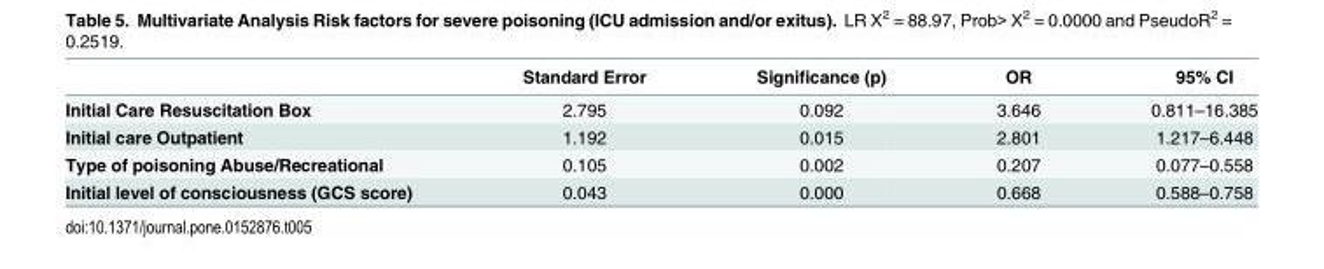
<table><thead><tr><td></td><td>Standard Error</td><td>Significance (p)</td><td>OR</td><td>95% CI</td></tr></thead><tbody><tr><td>Initial Care Resuscitation Box</td><td>2.795</td><td>0.092</td><td>3.646</td><td>0.811–16.385</td></tr><tr><td>Initial care Outpatient</td><td>1.192</td><td>0.015</td><td>2.801</td><td>1.217–6.448</td></tr><tr><td>Type of poisoning Abuse/Recreational</td><td>0.105</td><td>0.002</td><td>0.207</td><td>0.077–0.558</td></tr><tr><td>Initial level of consciousness (GCS score)</td><td>0.043</td><td>0.000</td><td>0.668</td><td>0.588–0.758</td></tr></tbody></table>